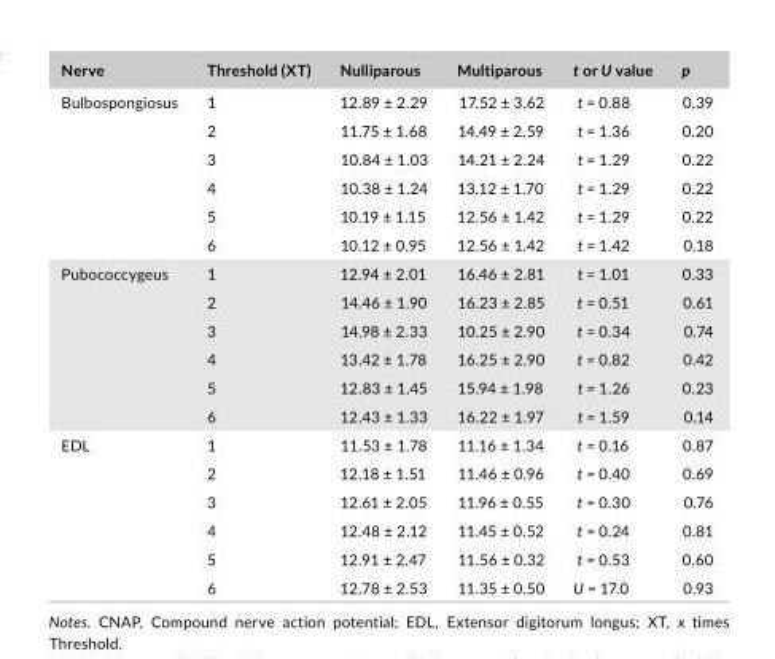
<table><thead><tr><td>Nerve</td><td>Threshold (XT)</td><td>Nulliparous</td><td>Multiparous</td><td>t or U value</td><td>p</td></tr></thead><tbody><tr><td rowspan="6">Bulbospongiosus</td><td>1</td><td>12.89 ± 2.29</td><td>17.52 ± 3.62</td><td>t = 0.88</td><td>0.39</td></tr><tr><td>2</td><td>11.75 ± 1.68</td><td>14.49 ± 2.59</td><td>t = 1.36</td><td>0.20</td></tr><tr><td>3</td><td>10.84 ± 1.03</td><td>14.21 ± 2.24</td><td>t = 1.29</td><td>0.22</td></tr><tr><td>4</td><td>10.38 ± 1.24</td><td>13.12 ± 1.70</td><td>t = 1.29</td><td>0.22</td></tr><tr><td>5</td><td>10.19 ± 1.15</td><td>12.56 ± 1.42</td><td>t = 1.29</td><td>0.22</td></tr><tr><td>6</td><td>10.12 ± 0.95</td><td>12.56 ± 1.42</td><td>t = 1.42</td><td>0.18</td></tr><tr><td rowspan="6">Pubococcygeus</td><td>1</td><td>12.94 ± 2.01</td><td>16.46 ± 2.81</td><td>t = 1.01</td><td>0.33</td></tr><tr><td>2</td><td>14.46 ± 1.90</td><td>16.23 ± 2.85</td><td>t = 0.51</td><td>0.61</td></tr><tr><td>3</td><td>14.98 ± 2.33</td><td>10.25 ± 2.90</td><td>t = 0.34</td><td>0.74</td></tr><tr><td>4</td><td>13.42 ± 1.78</td><td>16.25 ± 2.90</td><td>t = 0.82</td><td>0.42</td></tr><tr><td>5</td><td>12.83 ± 1.45</td><td>15.94 ± 1.98</td><td>t = 1.26</td><td>0.23</td></tr><tr><td>6</td><td>12.43 ± 1.33</td><td>16.22 ± 1.97</td><td>t = 1.59</td><td>0.14</td></tr><tr><td rowspan="6">EDL</td><td>1</td><td>11.53 ± 1.78</td><td>11.16 ± 1.34</td><td>t = 0.16</td><td>0.87</td></tr><tr><td>2</td><td>12.18 ± 1.51</td><td>11.46 ± 0.96</td><td>t = 0.40</td><td>0.69</td></tr><tr><td>3</td><td>12.61 ± 2.05</td><td>11.96 ± 0.55</td><td>t = 0.30</td><td>0.76</td></tr><tr><td>4</td><td>12.48 ± 2.12</td><td>11.45 ± 0.52</td><td>t = 0.24</td><td>0.81</td></tr><tr><td>5</td><td>12.91 ± 2.47</td><td>11.56 ± 0.32</td><td>t = 0.53</td><td>0.60</td></tr><tr><td>6</td><td>12.78 ± 2.53</td><td>11.35 ± 0.50</td><td>U = 17.0</td><td>0.93</td></tr></tbody></table>